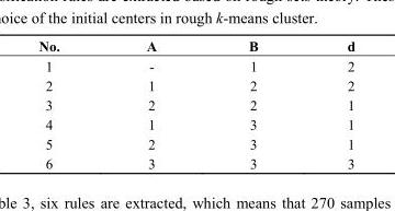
<table><thead><tr><td>No.</td><td>A</td><td>B</td><td>d</td></tr></thead><tbody><tr><td>1</td><td>-</td><td>1</td><td>2</td></tr><tr><td>2</td><td>1</td><td>2</td><td>2</td></tr><tr><td>3</td><td>2</td><td>2</td><td>1</td></tr><tr><td>4</td><td>1</td><td>3</td><td>1</td></tr><tr><td>5</td><td>2</td><td>3</td><td>1</td></tr><tr><td>6</td><td>3</td><td>3</td><td>3</td></tr></tbody></table>